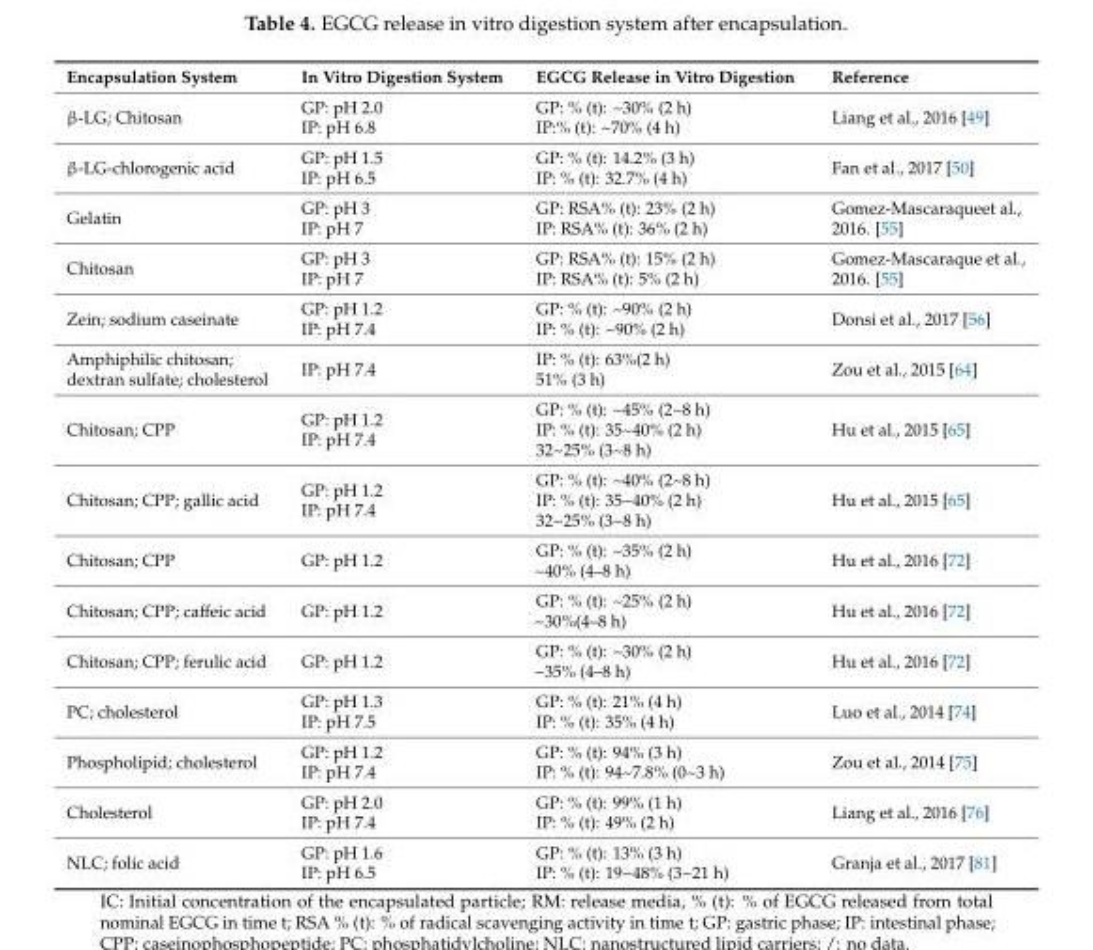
<table><thead><tr><td>Encapsulation System</td><td>In Vitro Digestion System</td><td>EGCG Release in Vitro Digestion</td><td>Reference</td></tr></thead><tbody><tr><td>β-LG; Chitosan</td><td>GP: pH 2.0 IP: pH 6.8</td><td>GP: % (t): ~30% (2 h) IP:% (t): ~70% (4 h)</td><td>Liang et al., 2016 [49]</td></tr><tr><td>β-LG-chlorogenic acid</td><td>GP: pH 1.5 IP: pH 6.5</td><td>GP: % (t): 14.2% (3 h) IP: % (t): 32.7% (4 h)</td><td>Fan et al., 2017 [50]</td></tr><tr><td>Gelatin</td><td>GP: pH 3 IP: pH 7</td><td>GP: RSA% (t): 23% (2 h) IP: RSA% (t): 36% (2 h)</td><td>Gomez-Mascaraqueet al., 2016. [55]</td></tr><tr><td>Chitosan</td><td>GP: pH 3 IP: pH 7</td><td>GP: RSA% (t): 15% (2 h) IP: RSA% (t): 5% (2 h)</td><td>Gomez-Mascaraque et al., 2016. [55]</td></tr><tr><td>Zein; sodium caseinate</td><td>GP: pH 1.2 IP: pH 7.4</td><td>GP: % (t): ~90% (2 h) IP: % (t): ~90% (2 h)</td><td>Donsi et al., 2017 [56]</td></tr><tr><td>Amphiphilic chitosan; dextran sulfate; cholesterol</td><td>IP: pH 7.4</td><td>IP: % (t): 63%(2 h) 51% (3 h)</td><td>Zou et al., 2015 [64]</td></tr><tr><td>Chitosan; CPP</td><td>GP: pH 1.2 IP: pH 7.4</td><td>GP: % (t): ~45% (2~8 h) IP: % (t): 35~40% (2 h) 32~25% (3~8 h)</td><td>Hu et al., 2015 [65]</td></tr><tr><td>Chitosan; CPP; gallic acid</td><td>GP: pH 1.2 IP: pH 7.4</td><td>GP: % (t): ~40% (2~8 h) IP: % (t): 35~40% (2 h) 32~25% (3~8 h)</td><td>Hu et al., 2015 [65]</td></tr><tr><td>Chitosan; CPP</td><td>GP: pH 1.2</td><td>GP: % (t): ~35% (2 h) ~40% (4–8 h)</td><td>Hu et al., 2016 [72]</td></tr><tr><td>Chitosan; CPP; caffeic acid</td><td>GP: pH 1.2</td><td>GP: % (t): ~25% (2 h) ~30%(4–8 h)</td><td>Hu et al., 2016 [72]</td></tr><tr><td>Chitosan; CPP; ferulic acid</td><td>GP: pH 1.2</td><td>GP: % (t): ~30% (2 h) ~35% (4–8 h)</td><td>Hu et al., 2016 [72]</td></tr><tr><td>PC; cholesterol</td><td>GP: pH 1.3 IP: pH 7.5</td><td>GP: % (t): 21% (4 h) IP: % (t): 35% (4 h)</td><td>Luo et al., 2014 [74]</td></tr><tr><td>Phospholipid; cholesterol</td><td>GP: pH 1.2 IP: pH 7.4</td><td>GP: % (t): 94% (3 h) IP: % (t): 94~7.8% (0~3 h)</td><td>Zou et al., 2014 [75]</td></tr><tr><td>Cholesterol</td><td>GP: pH 2.0 IP: pH 7.4</td><td>GP: % (t): 99% (1 h) IP: % (t): 49% (2 h)</td><td>Liang et al., 2016 [76]</td></tr><tr><td>NLC; folic acid</td><td>GP: pH 1.6 IP: pH 6.5</td><td>GP: % (t): 13% (3 h) IP: % (t): 19~48% (3~21 h)</td><td>Granja et al., 2017 [81]</td></tr></tbody></table>